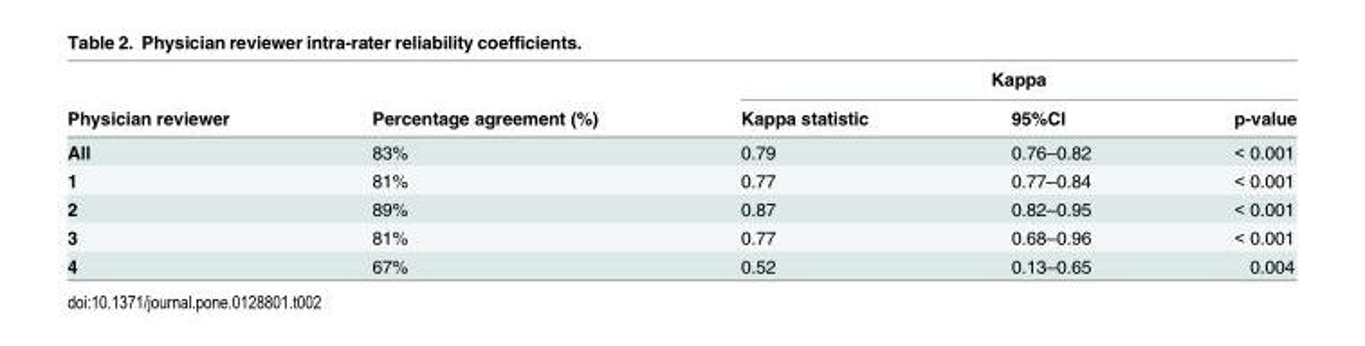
<table><thead><tr><td rowspan="2">Physician reviewer</td><td rowspan="2">Percentage agreement (%)</td><td colspan="3">Kappa</td></tr><tr><td>Kappa statistic</td><td>95%CI</td><td>p-value</td></tr></thead><tbody><tr><td>All</td><td>83%</td><td>0.79</td><td>0.76–0.82</td><td>&lt; 0.001</td></tr><tr><td>1</td><td>81%</td><td>0.77</td><td>0.77–0.84</td><td>&lt; 0.001</td></tr><tr><td>2</td><td>89%</td><td>0.87</td><td>0.82–0.95</td><td>&lt; 0.001</td></tr><tr><td>3</td><td>81%</td><td>0.77</td><td>0.68–0.96</td><td>&lt; 0.001</td></tr><tr><td>4</td><td>67%</td><td>0.52</td><td>0.13–0.65</td><td>0.004</td></tr></tbody></table>